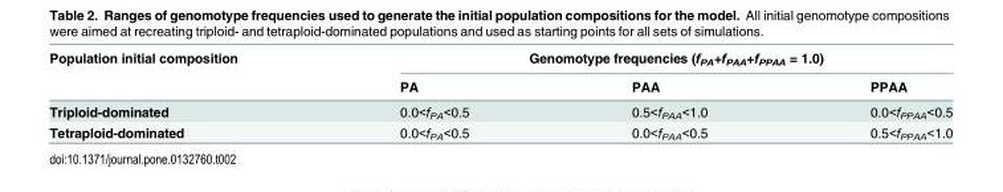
<table><thead><tr><td rowspan="2">Population initial composition</td><td colspan="3">Genomotype frequencies (f<sub>PA</sub>+f<sub>PAA</sub>+f<sub>PPAA</sub> = 1.0)</td></tr><tr><td>PA</td><td>PAA</td><td>PPAA</td></tr></thead><tbody><tr><td>Triploid-dominated</td><td>0.0&lt;f<sub>PA</sub>&lt;0.5</td><td>0.5&lt;f<sub>PAA</sub>&lt;1.0</td><td>0.0&lt;f<sub>PPAA</sub>&lt;0.5</td></tr><tr><td>Tetraploid-dominated</td><td>0.0&lt;f<sub>PA</sub>&lt;0.5</td><td>0.0&lt;f<sub>PAA</sub>&lt;0.5</td><td>0.5&lt;f<sub>PPAA</sub>&lt;1.0</td></tr></tbody></table>